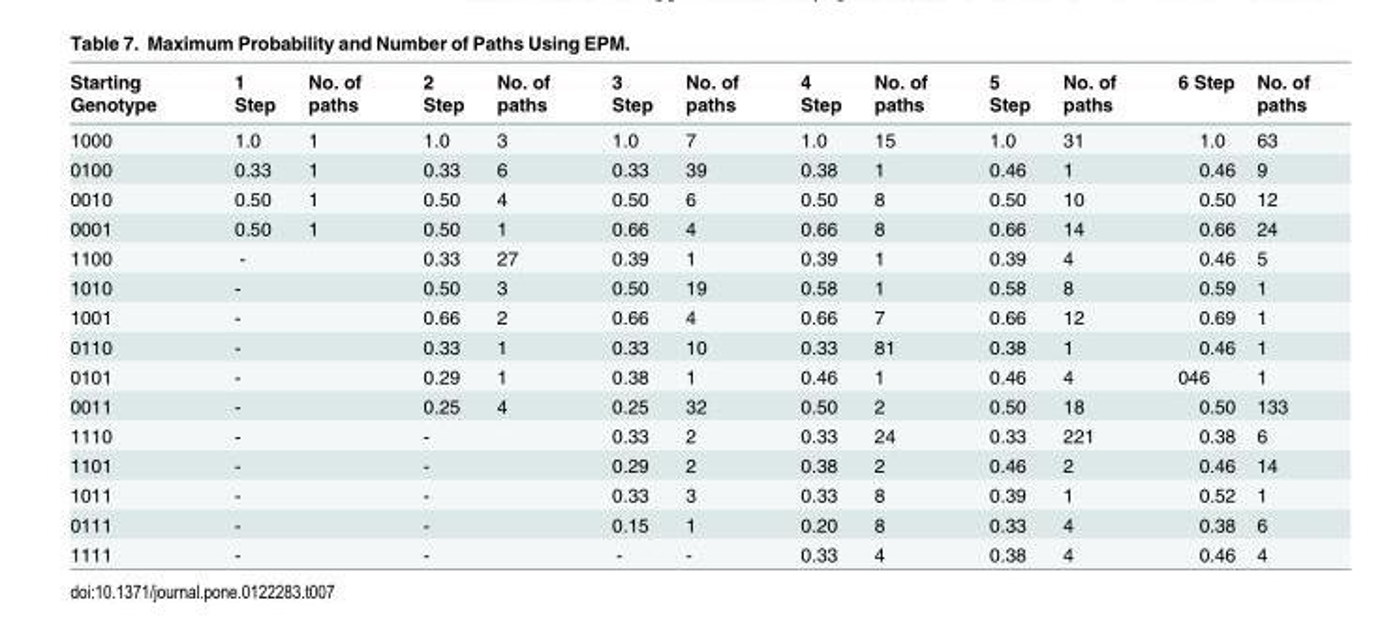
<table><thead><tr><td>Starting Genotype</td><td>1 Step</td><td>No. of paths</td><td>2 Step</td><td>No. of paths</td><td>3 Step</td><td>No. of paths</td><td>4 Step</td><td>No. of paths</td><td>5 Step</td><td>No. of paths</td><td>6 Step</td><td>No. of paths</td></tr></thead><tbody><tr><td>1000</td><td>1.0</td><td>1</td><td>1.0</td><td>3</td><td>1.0</td><td>7</td><td>1.0</td><td>15</td><td>1.0</td><td>31</td><td>1.0</td><td>63</td></tr><tr><td>0100</td><td>0.33</td><td>1</td><td>0.33</td><td>6</td><td>0.33</td><td>39</td><td>0.38</td><td>1</td><td>0.46</td><td>1</td><td>0.46</td><td>9</td></tr><tr><td>0010</td><td>0.50</td><td>1</td><td>0.50</td><td>4</td><td>0.50</td><td>6</td><td>0.50</td><td>8</td><td>0.50</td><td>10</td><td>0.50</td><td>12</td></tr><tr><td>0001</td><td>0.50</td><td>1</td><td>0.50</td><td>1</td><td>0.66</td><td>4</td><td>0.66</td><td>8</td><td>0.66</td><td>14</td><td>0.66</td><td>24</td></tr><tr><td>1100</td><td>-</td><td></td><td>0.33</td><td>27</td><td>0.39</td><td>1</td><td>0.39</td><td>1</td><td>0.39</td><td>4</td><td>0.46</td><td>5</td></tr><tr><td>1010</td><td>-</td><td></td><td>0.50</td><td>3</td><td>0.50</td><td>19</td><td>0.58</td><td>1</td><td>0.58</td><td>8</td><td>0.59</td><td>1</td></tr><tr><td>1001</td><td>-</td><td></td><td>0.66</td><td>2</td><td>0.66</td><td>4</td><td>0.66</td><td>7</td><td>0.66</td><td>12</td><td>0.69</td><td>1</td></tr><tr><td>0110</td><td>-</td><td></td><td>0.33</td><td>1</td><td>0.33</td><td>10</td><td>0.33</td><td>81</td><td>0.38</td><td>1</td><td>0.46</td><td>1</td></tr><tr><td>0101</td><td>-</td><td></td><td>0.29</td><td>1</td><td>0.38</td><td>1</td><td>0.46</td><td>1</td><td>0.46</td><td>4</td><td>046</td><td>1</td></tr><tr><td>0011</td><td>-</td><td></td><td>0.25</td><td>4</td><td>0.25</td><td>32</td><td>0.50</td><td>2</td><td>0.50</td><td>18</td><td>0.50</td><td>133</td></tr><tr><td>1110</td><td>-</td><td></td><td>-</td><td></td><td>0.33</td><td>2</td><td>0.33</td><td>24</td><td>0.33</td><td>221</td><td>0.38</td><td>6</td></tr><tr><td>1101</td><td>-</td><td></td><td>-</td><td></td><td>0.29</td><td>2</td><td>0.38</td><td>2</td><td>0.46</td><td>2</td><td>0.46</td><td>14</td></tr><tr><td>1011</td><td>-</td><td></td><td>-</td><td></td><td>0.33</td><td>3</td><td>0.33</td><td>8</td><td>0.39</td><td>1</td><td>0.52</td><td>1</td></tr><tr><td>0111</td><td>-</td><td></td><td>-</td><td></td><td>0.15</td><td>1</td><td>0.20</td><td>8</td><td>0.33</td><td>4</td><td>0.38</td><td>6</td></tr><tr><td>1111</td><td>-</td><td></td><td>-</td><td></td><td>-</td><td>-</td><td>0.33</td><td>4</td><td>0.38</td><td>4</td><td>0.46</td><td>4</td></tr></tbody></table>